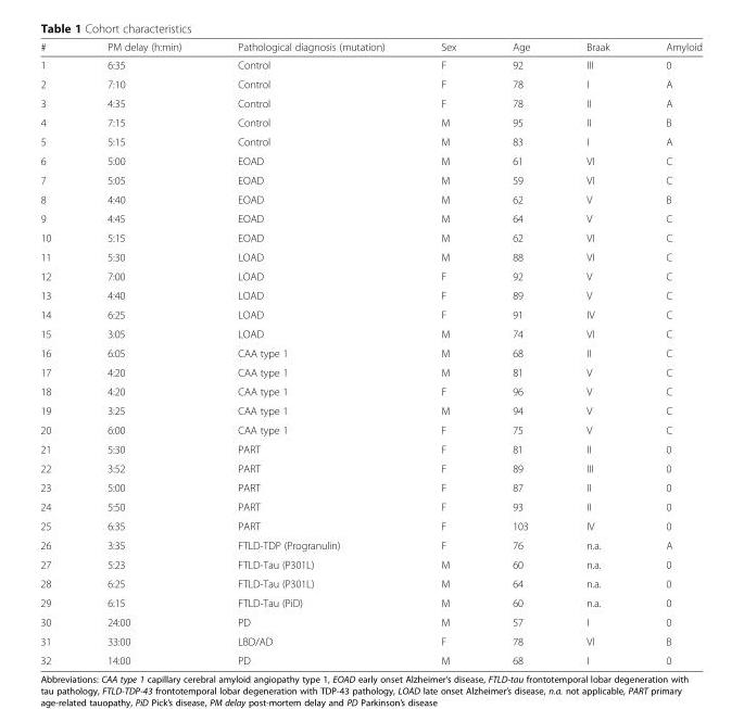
<table><thead><tr><td>#</td><td>PM delay (h:min)</td><td>Pathological diagnosis (mutation)</td><td>Sex</td><td>Age</td><td>Braak</td><td>Amyloid</td></tr></thead><tbody><tr><td>1</td><td>6:35</td><td>Control</td><td>F</td><td>92</td><td>III</td><td>0</td></tr><tr><td>2</td><td>7:10</td><td>Control</td><td>F</td><td>78</td><td>I</td><td>A</td></tr><tr><td>3</td><td>4:35</td><td>Control</td><td>F</td><td>78</td><td>II</td><td>A</td></tr><tr><td>4</td><td>7:15</td><td>Control</td><td>M</td><td>95</td><td>II</td><td>B</td></tr><tr><td>5</td><td>5:15</td><td>Control</td><td>M</td><td>83</td><td>I</td><td>A</td></tr><tr><td>6</td><td>5:00</td><td>EOAD</td><td>M</td><td>61</td><td>VI</td><td>C</td></tr><tr><td>7</td><td>5:05</td><td>EOAD</td><td>M</td><td>59</td><td>VI</td><td>C</td></tr><tr><td>8</td><td>4:40</td><td>EOAD</td><td>M</td><td>62</td><td>V</td><td>B</td></tr><tr><td>9</td><td>4:45</td><td>EOAD</td><td>M</td><td>64</td><td>V</td><td>C</td></tr><tr><td>10</td><td>5:15</td><td>EOAD</td><td>M</td><td>62</td><td>VI</td><td>C</td></tr><tr><td>11</td><td>5:30</td><td>LOAD</td><td>M</td><td>88</td><td>VI</td><td>C</td></tr><tr><td>12</td><td>7:00</td><td>LOAD</td><td>F</td><td>92</td><td>V</td><td>C</td></tr><tr><td>13</td><td>4:40</td><td>LOAD</td><td>F</td><td>89</td><td>V</td><td>C</td></tr><tr><td>14</td><td>6:25</td><td>LOAD</td><td>F</td><td>91</td><td>IV</td><td>C</td></tr><tr><td>15</td><td>3:05</td><td>LOAD</td><td>M</td><td>74</td><td>VI</td><td>C</td></tr><tr><td>16</td><td>6:05</td><td>CAA type 1</td><td>M</td><td>68</td><td>II</td><td>C</td></tr><tr><td>17</td><td>4:20</td><td>CAA type 1</td><td>M</td><td>81</td><td>V</td><td>C</td></tr><tr><td>18</td><td>4:20</td><td>CAA type 1</td><td>F</td><td>96</td><td>V</td><td>C</td></tr><tr><td>19</td><td>3:25</td><td>CAA type 1</td><td>M</td><td>94</td><td>V</td><td>C</td></tr><tr><td>20</td><td>6:00</td><td>CAA type 1</td><td>F</td><td>75</td><td>V</td><td>C</td></tr><tr><td>21</td><td>5:30</td><td>PART</td><td>F</td><td>81</td><td>II</td><td>0</td></tr><tr><td>22</td><td>3:52</td><td>PART</td><td>F</td><td>89</td><td>III</td><td>0</td></tr><tr><td>23</td><td>5:00</td><td>PART</td><td>F</td><td>87</td><td>II</td><td>0</td></tr><tr><td>24</td><td>5:50</td><td>PART</td><td>F</td><td>93</td><td>II</td><td>0</td></tr><tr><td>25</td><td>6:35</td><td>PART</td><td>F</td><td>103</td><td>IV</td><td>0</td></tr><tr><td>26</td><td>3:35</td><td>FTLD-TDP (Progranulin)</td><td>F</td><td>76</td><td>n.a.</td><td>A</td></tr><tr><td>27</td><td>5:23</td><td>FTLD-Tau (P301L)</td><td>M</td><td>60</td><td>n.a.</td><td>0</td></tr><tr><td>28</td><td>6:25</td><td>FTLD-Tau (P301L)</td><td>M</td><td>64</td><td>n.a.</td><td>0</td></tr><tr><td>29</td><td>6:15</td><td>FTLD-Tau (PiD)</td><td>M</td><td>60</td><td>n.a.</td><td>0</td></tr><tr><td>30</td><td>24:00</td><td>PD</td><td>M</td><td>57</td><td>I</td><td>0</td></tr><tr><td>31</td><td>33:00</td><td>LBD/AD</td><td>F</td><td>78</td><td>VI</td><td>B</td></tr><tr><td>32</td><td>14:00</td><td>PD</td><td>M</td><td>68</td><td>I</td><td>0</td></tr></tbody></table>